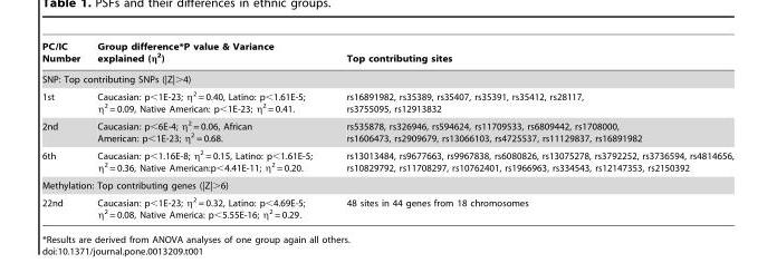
<table><thead><tr><td>PC/IC Number</td><td>Group difference*P value &amp; Variance explained (η<sup>2</sup>)</td><td>Top contributing sites</td></tr></thead><tbody><tr><td colspan="3">SNP: Top contributing SNPs (|Z|&gt;4)</td></tr><tr><td>1st</td><td>Caucasian: p&lt;1E-23; η<sup>2</sup> = 0.40, Latino: p&lt;1.61E-5; η<sup>2</sup> = 0.09, Native American: p&lt;1E-23; η<sup>2</sup> = 0.41.</td><td>rs16891982, rs35389, rs35407, rs35391, rs35412, rs28117, rs3755095, rs12913832</td></tr><tr><td>2nd</td><td>Caucasian: p&lt;6E-4; η<sup>2</sup> = 0.06, African American: p&lt;1E-23; η<sup>2</sup> = 0.68.</td><td>rs535878, rs326946, rs594624, rs11709533, rs6809442, rs1708000, rs1606473, rs2909679, rs13066103, rs4725537, rs11129837, rs16891982</td></tr><tr><td>6th</td><td>Caucasian: p&lt;1.16E-8; η<sup>2</sup> = 0.15, Latino: p&lt;1.61E-5; η<sup>2</sup> = 0.36, Native American:p&lt;4.41E-11; η<sup>2</sup> = 0.20.</td><td>rs13013484, rs9677663, rs9967838, rs6080826, rs13075278, rs3792252, rs3736594, rs4814656, rs10829792, rs11708297, rs10762401, rs1966963, rs334543, rs12147353, rs2150392</td></tr><tr><td colspan="3">Methylation: Top contributing genes (|Z|&gt;6)</td></tr><tr><td>22nd</td><td>Caucasian: p&lt;1E-23; η<sup>2</sup> = 0.32, Latino: p&lt;4.69E-5; η<sup>2</sup> = 0.08, Native America: p&lt;5.55E-16; η<sup>2</sup> = 0.29.</td><td>48 sites in 44 genes from 18 chromosomes</td></tr></tbody></table>